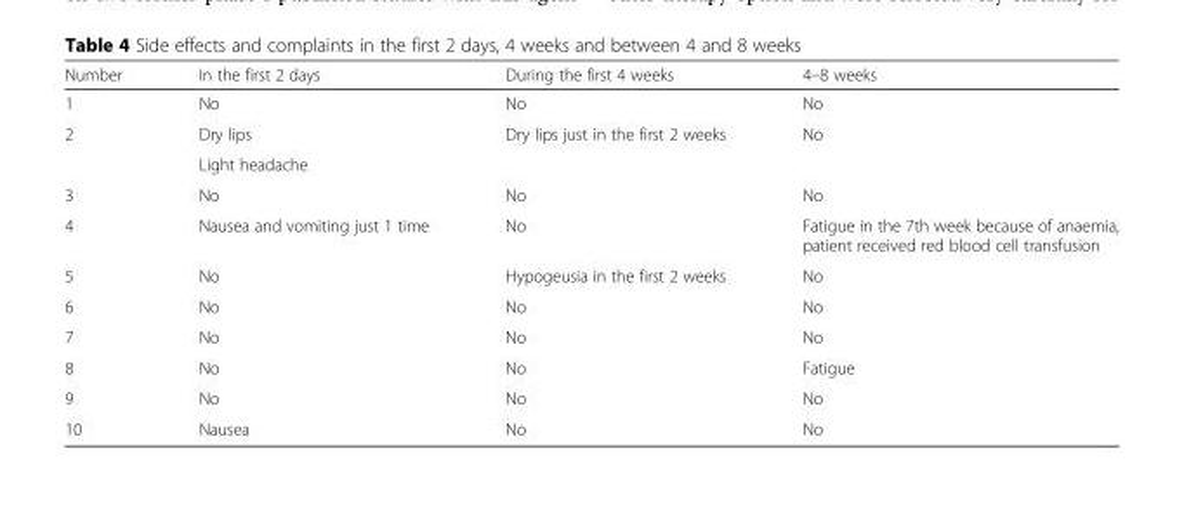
<table><thead><tr><td>Number</td><td>In the first 2 days</td><td>During the first 4 weeks</td><td>4–8 weeks</td></tr></thead><tbody><tr><td>1</td><td>No</td><td>No</td><td>No</td></tr><tr><td rowspan="2">2</td><td>Dry lips</td><td rowspan="2">Dry lips just in the first 2 weeks</td><td rowspan="2">No</td></tr><tr><td>Light headache</td></tr><tr><td>3</td><td>No</td><td>No</td><td>No</td></tr><tr><td>4</td><td>Nausea and vomiting just 1 time</td><td>No</td><td>Fatigue in the 7th week because of anaemia, patient received red blood cell transfusion</td></tr><tr><td>5</td><td>No</td><td>Hypogeusia in the first 2 weeks</td><td>No</td></tr><tr><td>6</td><td>No</td><td>No</td><td>No</td></tr><tr><td>7</td><td>No</td><td>No</td><td>No</td></tr><tr><td>8</td><td>No</td><td>No</td><td>Fatigue</td></tr><tr><td>9</td><td>No</td><td>No</td><td>No</td></tr><tr><td>10</td><td>Nausea</td><td>No</td><td>No</td></tr></tbody></table>